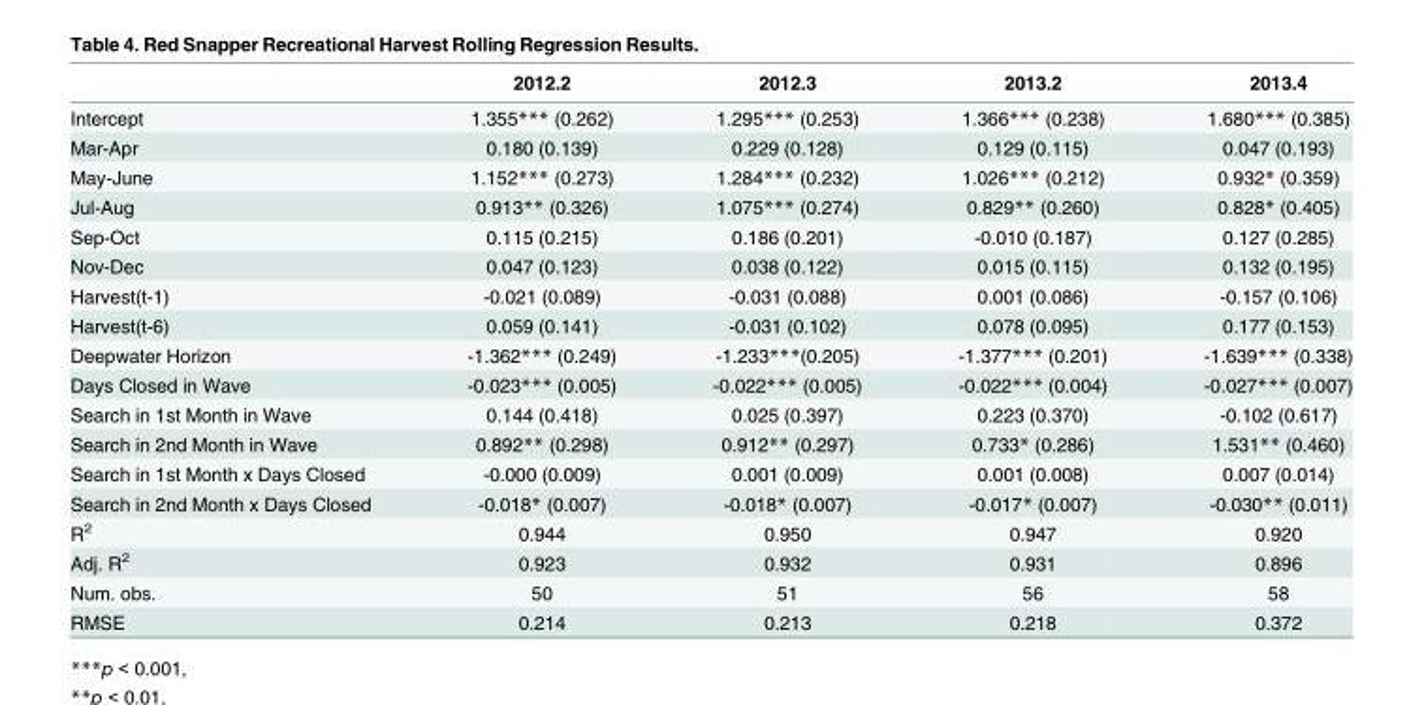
<table><thead><tr><td></td><td>2012.2</td><td>2012.3</td><td>2013.2</td><td>2013.4</td></tr></thead><tbody><tr><td>Intercept</td><td>1.355*** (0.262)</td><td>1.295*** (0.253)</td><td>1.366*** (0.238)</td><td>1.680*** (0.385)</td></tr><tr><td>Mar-Apr</td><td>0.180 (0.139)</td><td>0.229 (0.128)</td><td>0.129 (0.115)</td><td>0.047 (0.193)</td></tr><tr><td>May-June</td><td>1.152*** (0.273)</td><td>1.284*** (0.232)</td><td>1.026*** (0.212)</td><td>0.932* (0.359)</td></tr><tr><td>Jul-Aug</td><td>0.913** (0.326)</td><td>1.075*** (0.274)</td><td>0.829** (0.260)</td><td>0.828* (0.405)</td></tr><tr><td>Sep-Oct</td><td>0.115 (0.215)</td><td>0.186 (0.201)</td><td>-0.010 (0.187)</td><td>0.127 (0.285)</td></tr><tr><td>Nov-Dec</td><td>0.047 (0.123)</td><td>0.038 (0.122)</td><td>0.015 (0.115)</td><td>0.132 (0.195)</td></tr><tr><td>Harvest(t-1)</td><td>-0.021 (0.089)</td><td>-0.031 (0.088)</td><td>0.001 (0.086)</td><td>-0.157 (0.106)</td></tr><tr><td>Harvest(t-6)</td><td>0.059 (0.141)</td><td>-0.031 (0.102)</td><td>0.078 (0.095)</td><td>0.177 (0.153)</td></tr><tr><td>Deepwater Horizon</td><td>-1.362*** (0.249)</td><td>-1.233***(0.205)</td><td>-1.377*** (0.201)</td><td>-1.639*** (0.338)</td></tr><tr><td>Days Closed in Wave</td><td>-0.023*** (0.005)</td><td>-0.022*** (0.005)</td><td>-0.022*** (0.004)</td><td>-0.027*** (0.007)</td></tr><tr><td>Search in 1st Month in Wave</td><td>0.144 (0.418)</td><td>0.025 (0.397)</td><td>0.223 (0.370)</td><td>-0.102 (0.617)</td></tr><tr><td>Search in 2nd Month in Wave</td><td>0.892** (0.298)</td><td>0.912** (0.297)</td><td>0.733* (0.286)</td><td>1.531** (0.460)</td></tr><tr><td>Search in 1st Month x Days Closed</td><td>-0.000 (0.009)</td><td>0.001 (0.009)</td><td>0.001 (0.008)</td><td>0.007 (0.014)</td></tr><tr><td>Search in 2nd Month x Days Closed</td><td>-0.018* (0.007)</td><td>-0.018* (0.007)</td><td>-0.017* (0.007)</td><td>-0.030** (0.011)</td></tr><tr><td>R<sup>2</sup></td><td>0.944</td><td>0.950</td><td>0.947</td><td>0.920</td></tr><tr><td>Adj. R<sup>2</sup></td><td>0.923</td><td>0.932</td><td>0.931</td><td>0.896</td></tr><tr><td>Num. obs.</td><td>50</td><td>51</td><td>56</td><td>58</td></tr><tr><td>RMSE</td><td>0.214</td><td>0.213</td><td>0.218</td><td>0.372</td></tr></tbody></table>